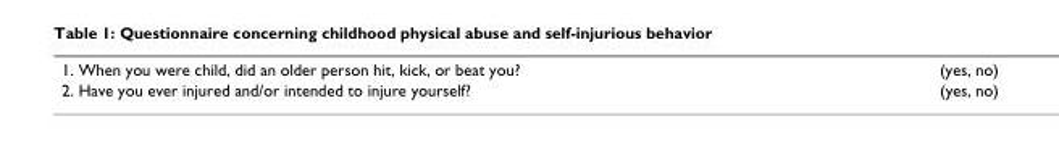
<table><tbody><tr><td>1. When you were child, did an older person hit, kick, or beat you?</td><td>(yes, no)</td></tr><tr><td>2. Have you ever injured and/or intended to injure yourself?</td><td>(yes, no)</td></tr></tbody></table>